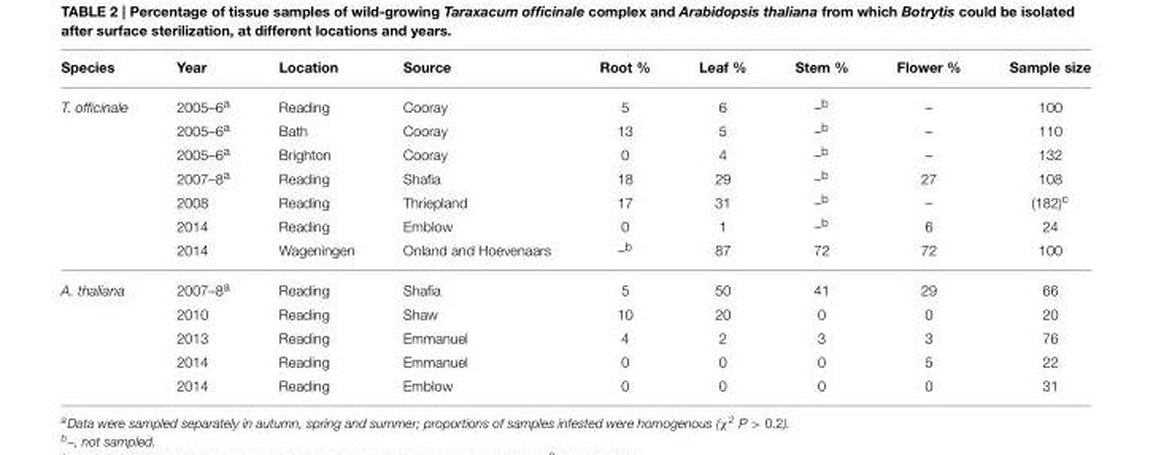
<table><thead><tr><td>Species</td><td>Year</td><td>Location</td><td>Source</td><td>Root %</td><td>Leaf %</td><td>Stem %</td><td>Flower %</td><td>Sample size</td></tr></thead><tbody><tr><td rowspan="7">T. officinale</td><td>2005–6<sup>a</sup></td><td>Reading</td><td>Cooray</td><td>5</td><td>6</td><td>–<sup>b</sup></td><td>–</td><td>100</td></tr><tr><td>2005–6<sup>a</sup></td><td>Bath</td><td>Cooray</td><td>13</td><td>5</td><td>–<sup>b</sup></td><td>–</td><td>110</td></tr><tr><td>2005–6<sup>a</sup></td><td>Brighton</td><td>Cooray</td><td>0</td><td>4</td><td>–<sup>b</sup></td><td>–</td><td>132</td></tr><tr><td>2007–8<sup>a</sup></td><td>Reading</td><td>Shafia</td><td>18</td><td>29</td><td>–<sup>b</sup></td><td>27</td><td>108</td></tr><tr><td>2008</td><td>Reading</td><td>Thriepland</td><td>17</td><td>31</td><td>–<sup>b</sup></td><td>–</td><td>(182)<sup>c</sup></td></tr><tr><td>2014</td><td>Reading</td><td>Emblow</td><td>0</td><td>1</td><td>–<sup>b</sup></td><td>6</td><td>24</td></tr><tr><td>2014</td><td>Wageningen</td><td>Onland and Hoevenaars</td><td>–<sup>b</sup></td><td>87</td><td>72</td><td>72</td><td>100</td></tr><tr><td rowspan="5">A. thaliana</td><td>2007–8<sup>a</sup></td><td>Reading</td><td>Shafia</td><td>5</td><td>50</td><td>41</td><td>29</td><td>66</td></tr><tr><td>2010</td><td>Reading</td><td>Shaw</td><td>10</td><td>20</td><td>0</td><td>0</td><td>20</td></tr><tr><td>2013</td><td>Reading</td><td>Emmanuel</td><td>4</td><td>2</td><td>3</td><td>3</td><td>76</td></tr><tr><td>2014</td><td>Reading</td><td>Emmanuel</td><td>0</td><td>0</td><td>0</td><td>5</td><td>22</td></tr><tr><td>2014</td><td>Reading</td><td>Emblow</td><td>0</td><td>0</td><td>0</td><td>0</td><td>31</td></tr></tbody></table>